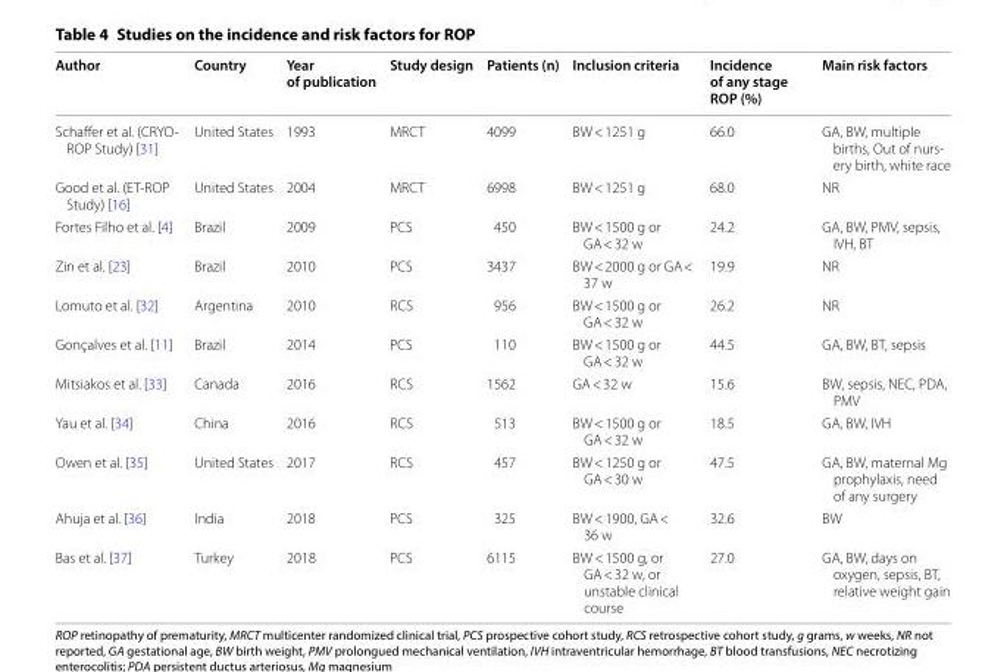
<table><thead><tr><td>Author</td><td>Country</td><td>Year of publication</td><td>Study design</td><td>Patients (n)</td><td>Inclusion criteria</td><td>Incidence of any stage ROP (%)</td><td>Main risk factors</td></tr></thead><tbody><tr><td>Schaffer et al. (CRYO- ROP Study) [31]</td><td>United States</td><td>1993</td><td>MRCT</td><td>4099</td><td>BW &lt; 1251 g</td><td>66.0</td><td>GA, BW, multiple births, Out of nurs- ery birth, white race</td></tr><tr><td>Good et al. (ET-ROP Study) [16]</td><td>United States</td><td>2004</td><td>MRCT</td><td>6998</td><td>BW &lt; 1251 g</td><td>68.0</td><td>NR</td></tr><tr><td>Fortes Filho et al. [4]</td><td>Brazil</td><td>2009</td><td>PCS</td><td>450</td><td>BW &lt; 1500 g or GA &lt; 32 w</td><td>24.2</td><td>GA, BW, PMV, sepsis, IVH, BT</td></tr><tr><td>Zin et al. [23]</td><td>Brazil</td><td>2010</td><td>PCS</td><td>3437</td><td>BW &lt; 2000 g or GA &lt; 37 w</td><td>19.9</td><td>NR</td></tr><tr><td>Lomuto et al. [32]</td><td>Argentina</td><td>2010</td><td>RCS</td><td>956</td><td>BW &lt; 1500 g or GA &lt; 32 w</td><td>26.2</td><td>NR</td></tr><tr><td>Gonçalves et al. [11]</td><td>Brazil</td><td>2014</td><td>PCS</td><td>110</td><td>BW &lt; 1500 g or GA &lt; 32 w</td><td>44.5</td><td>GA, BW, BT, sepsis</td></tr><tr><td>Mitsiakos et al. [33]</td><td>Canada</td><td>2016</td><td>RCS</td><td>1562</td><td>GA &lt; 32 w</td><td>15.6</td><td>BW, sepsis, NEC, PDA, PMV</td></tr><tr><td>Yau et al. [34]</td><td>China</td><td>2016</td><td>RCS</td><td>513</td><td>BW &lt; 1500 g or GA &lt; 32 w</td><td>18.5</td><td>GA, BW, IVH</td></tr><tr><td>Owen et al. [35]</td><td>United States</td><td>2017</td><td>RCS</td><td>457</td><td>BW &lt; 1250 g or GA &lt; 30 w</td><td>47.5</td><td>GA, BW, maternal Mg prophylaxis, need of any surgery</td></tr><tr><td>Ahuja et al. [36]</td><td>India</td><td>2018</td><td>PCS</td><td>325</td><td>BW &lt; 1900, GA &lt; 36 w</td><td>32.6</td><td>BW</td></tr><tr><td>Bas et al. [37]</td><td>Turkey</td><td>2018</td><td>PCS</td><td>6115</td><td>BW &lt; 1500 g, or GA &lt; 32 w, or unstable clinical course</td><td>27.0</td><td>GA, BW, days on oxygen, sepsis, BT, relative weight gain</td></tr></tbody></table>